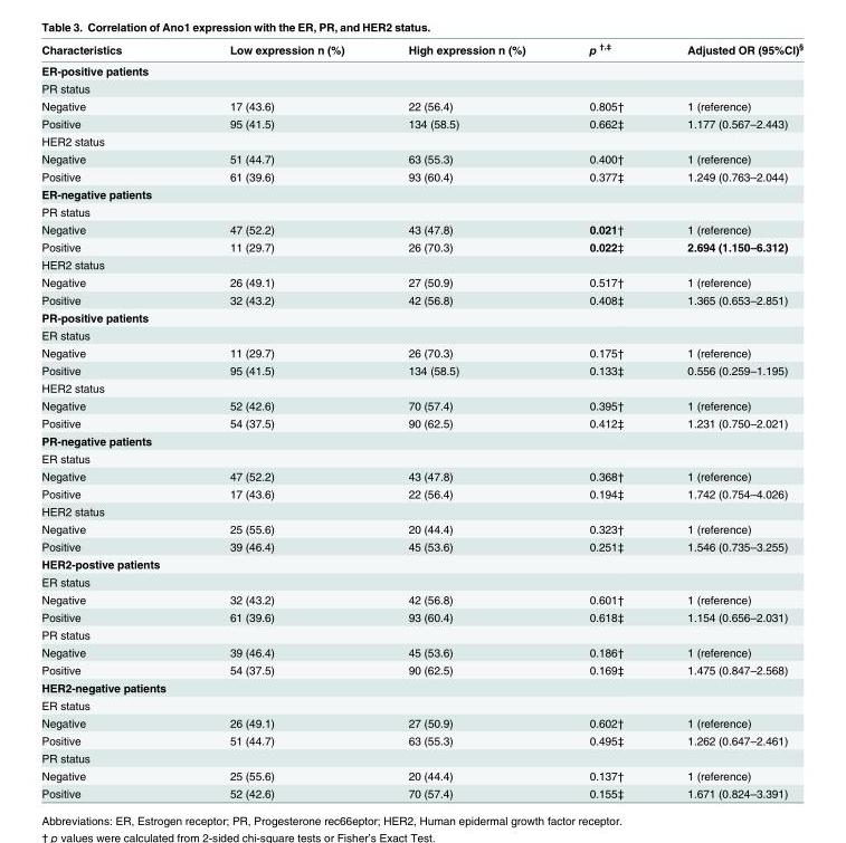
<table><thead><tr><td>Characteristics</td><td>Low expression n (%)</td><td>High expression n (%)</td><td>p <sup>†,‡</sup></td><td>Adjusted OR (95%CI)<sup>§</sup></td></tr></thead><tbody><tr><td colspan="5">ER-positive patients</td></tr><tr><td colspan="5">PR status</td></tr><tr><td>Negative</td><td>17 (43.6)</td><td>22 (56.4)</td><td>0.805†</td><td>1 (reference)</td></tr><tr><td>Positive</td><td>95 (41.5)</td><td>134 (58.5)</td><td>0.662‡</td><td>1.177 (0.567–2.443)</td></tr><tr><td colspan="5">HER2 status</td></tr><tr><td>Negative</td><td>51 (44.7)</td><td>63 (55.3)</td><td>0.400†</td><td>1 (reference)</td></tr><tr><td>Positive</td><td>61 (39.6)</td><td>93 (60.4)</td><td>0.377‡</td><td>1.249 (0.763–2.044)</td></tr><tr><td colspan="5">ER-negative patients</td></tr><tr><td colspan="5">PR status</td></tr><tr><td>Negative</td><td>47 (52.2)</td><td>43 (47.8)</td><td>0.021†</td><td>1 (reference)</td></tr><tr><td>Positive</td><td>11 (29.7)</td><td>26 (70.3)</td><td>0.022‡</td><td>2.694 (1.150–6.312)</td></tr><tr><td colspan="5">HER2 status</td></tr><tr><td>Negative</td><td>26 (49.1)</td><td>27 (50.9)</td><td>0.517†</td><td>1 (reference)</td></tr><tr><td>Positive</td><td>32 (43.2)</td><td>42 (56.8)</td><td>0.408‡</td><td>1.365 (0.653–2.851)</td></tr><tr><td colspan="5">PR-positive patients</td></tr><tr><td colspan="5">ER status</td></tr><tr><td>Negative</td><td>11 (29.7)</td><td>26 (70.3)</td><td>0.175†</td><td>1 (reference)</td></tr><tr><td>Positive</td><td>95 (41.5)</td><td>134 (58.5)</td><td>0.133‡</td><td>0.556 (0.259–1.195)</td></tr><tr><td colspan="5">HER2 status</td></tr><tr><td>Negative</td><td>52 (42.6)</td><td>70 (57.4)</td><td>0.395†</td><td>1 (reference)</td></tr><tr><td>Positive</td><td>54 (37.5)</td><td>90 (62.5)</td><td>0.412‡</td><td>1.231 (0.750–2.021)</td></tr><tr><td colspan="5">PR-negative patients</td></tr><tr><td colspan="5">ER status</td></tr><tr><td>Negative</td><td>47 (52.2)</td><td>43 (47.8)</td><td>0.368†</td><td>1 (reference)</td></tr><tr><td>Positive</td><td>17 (43.6)</td><td>22 (56.4)</td><td>0.194‡</td><td>1.742 (0.754–4.026)</td></tr><tr><td colspan="5">HER2 status</td></tr><tr><td>Negative</td><td>25 (55.6)</td><td>20 (44.4)</td><td>0.323†</td><td>1 (reference)</td></tr><tr><td>Positive</td><td>39 (46.4)</td><td>45 (53.6)</td><td>0.251‡</td><td>1.546 (0.735–3.255)</td></tr><tr><td colspan="5">HER2-postive patients</td></tr><tr><td colspan="5">ER status</td></tr><tr><td>Negative</td><td>32 (43.2)</td><td>42 (56.8)</td><td>0.601†</td><td>1 (reference)</td></tr><tr><td>Positive</td><td>61 (39.6)</td><td>93 (60.4)</td><td>0.618‡</td><td>1.154 (0.656–2.031)</td></tr><tr><td colspan="5">PR status</td></tr><tr><td>Negative</td><td>39 (46.4)</td><td>45 (53.6)</td><td>0.186†</td><td>1 (reference)</td></tr><tr><td>Positive</td><td>54 (37.5)</td><td>90 (62.5)</td><td>0.169‡</td><td>1.475 (0.847–2.568)</td></tr><tr><td colspan="5">HER2-negative patients</td></tr><tr><td colspan="5">ER status</td></tr><tr><td>Negative</td><td>26 (49.1)</td><td>27 (50.9)</td><td>0.602†</td><td>1 (reference)</td></tr><tr><td>Positive</td><td>51 (44.7)</td><td>63 (55.3)</td><td>0.495‡</td><td>1.262 (0.647–2.461)</td></tr><tr><td colspan="5">PR status</td></tr><tr><td>Negative</td><td>25 (55.6)</td><td>20 (44.4)</td><td>0.137†</td><td>1 (reference)</td></tr><tr><td>Positive</td><td>52 (42.6)</td><td>70 (57.4)</td><td>0.155‡</td><td>1.671 (0.824–3.391)</td></tr></tbody></table>